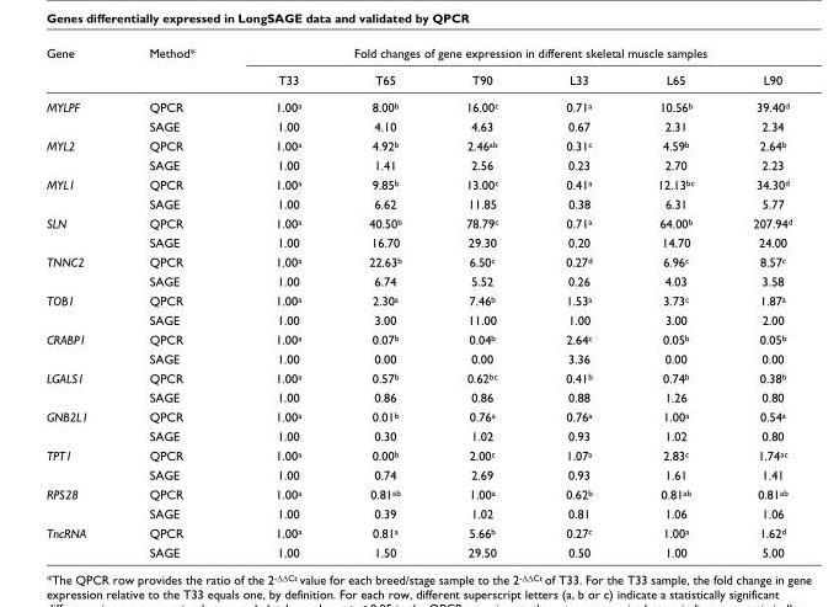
<table><thead><tr><td rowspan="2">Gene</td><td rowspan="2">Method*</td><td colspan="6">Fold changes of gene expression in different skeletal muscle samples</td></tr><tr><td>T33</td><td>T65</td><td>T90</td><td>L33</td><td>L65</td><td>L90</td></tr></thead><tbody><tr><td rowspan="2">MYLPF</td><td>QPCR</td><td>1.00<sup>a</sup></td><td>8.00<sup>b</sup></td><td>16.00<sup>c</sup></td><td>0.71<sup>a</sup></td><td>10.56<sup>b</sup></td><td>39.40<sup>d</sup></td></tr><tr><td>SAGE</td><td>1.00</td><td>4.10</td><td>4.63</td><td>0.67</td><td>2.31</td><td>2.34</td></tr><tr><td rowspan="2">MYL2</td><td>QPCR</td><td>1.00<sup>a</sup></td><td>4.92<sup>b</sup></td><td>2.46<sup>ab</sup></td><td>0.31<sup>c</sup></td><td>4.59<sup>b</sup></td><td>2.64<sup>b</sup></td></tr><tr><td>SAGE</td><td>1.00</td><td>1.41</td><td>2.56</td><td>0.23</td><td>2.70</td><td>2.23</td></tr><tr><td rowspan="2">MYL1</td><td>QPCR</td><td>1.00<sup>a</sup></td><td>9.85<sup>b</sup></td><td>13.00<sup>c</sup></td><td>0.41<sup>a</sup></td><td>12.13<sup>bc</sup></td><td>34.30<sup>d</sup></td></tr><tr><td>SAGE</td><td>1.00</td><td>6.62</td><td>11.85</td><td>0.38</td><td>6.31</td><td>5.77</td></tr><tr><td rowspan="2">SLN</td><td>QPCR</td><td>1.00<sup>a</sup></td><td>40.50<sup>b</sup></td><td>78.79<sup>c</sup></td><td>0.71<sup>a</sup></td><td>64.00<sup>b</sup></td><td>207.94<sup>d</sup></td></tr><tr><td>SAGE</td><td>1.00</td><td>16.70</td><td>29.30</td><td>0.20</td><td>14.70</td><td>24.00</td></tr><tr><td rowspan="2">TNNC2</td><td>QPCR</td><td>1.00<sup>a</sup></td><td>22.63<sup>b</sup></td><td>6.50<sup>c</sup></td><td>0.27<sup>d</sup></td><td>6.96<sup>c</sup></td><td>8.57<sup>c</sup></td></tr><tr><td>SAGE</td><td>1.00</td><td>6.74</td><td>5.52</td><td>0.26</td><td>4.03</td><td>3.58</td></tr><tr><td rowspan="2">TOB1</td><td>QPCR</td><td>1.00<sup>a</sup></td><td>2.30<sup>a</sup></td><td>7.46<sup>b</sup></td><td>1.53<sup>a</sup></td><td>3.73<sup>c</sup></td><td>1.87<sup>a</sup></td></tr><tr><td>SAGE</td><td>1.00</td><td>3.00</td><td>11.00</td><td>1.00</td><td>3.00</td><td>2.00</td></tr><tr><td rowspan="2">CRABP1</td><td>QPCR</td><td>1.00<sup>a</sup></td><td>0.07<sup>b</sup></td><td>0.04<sup>b</sup></td><td>2.64<sup>c</sup></td><td>0.05<sup>b</sup></td><td>0.05<sup>b</sup></td></tr><tr><td>SAGE</td><td>1.00</td><td>0.00</td><td>0.00</td><td>3.36</td><td>0.00</td><td>0.00</td></tr><tr><td rowspan="2">LGALS1</td><td>QPCR</td><td>1.00<sup>a</sup></td><td>0.57<sup>b</sup></td><td>0.62<sup>bc</sup></td><td>0.41<sup>b</sup></td><td>0.74<sup>b</sup></td><td>0.38<sup>b</sup></td></tr><tr><td>SAGE</td><td>1.00</td><td>0.86</td><td>0.86</td><td>0.88</td><td>1.26</td><td>0.80</td></tr><tr><td rowspan="2">GNB2L1</td><td>QPCR</td><td>1.00<sup>a</sup></td><td>0.01<sup>b</sup></td><td>0.76<sup>a</sup></td><td>0.76<sup>a</sup></td><td>1.00<sup>a</sup></td><td>0.54<sup>a</sup></td></tr><tr><td>SAGE</td><td>1.00</td><td>0.30</td><td>1.02</td><td>0.93</td><td>1.02</td><td>0.80</td></tr><tr><td rowspan="2">TPT1</td><td>QPCR</td><td>1.00<sup>a</sup></td><td>0.00<sup>b</sup></td><td>2.00<sup>c</sup></td><td>1.07<sup>a</sup></td><td>2.83<sup>c</sup></td><td>1.74<sup>ac</sup></td></tr><tr><td>SAGE</td><td>1.00</td><td>0.74</td><td>2.69</td><td>0.93</td><td>1.61</td><td>1.41</td></tr><tr><td rowspan="2">RPS28</td><td>QPCR</td><td>1.00<sup>a</sup></td><td>0.81<sup>ab</sup></td><td>1.00<sup>a</sup></td><td>0.62<sup>b</sup></td><td>0.81<sup>ab</sup></td><td>0.81<sup>ab</sup></td></tr><tr><td>SAGE</td><td>1.00</td><td>0.39</td><td>1.02</td><td>0.81</td><td>1.06</td><td>1.06</td></tr><tr><td rowspan="2">TncRNA</td><td>QPCR</td><td>1.00<sup>a</sup></td><td>0.81<sup>a</sup></td><td>5.66<sup>b</sup></td><td>0.27<sup>c</sup></td><td>1.00<sup>a</sup></td><td>1.62<sup>d</sup></td></tr><tr><td>SAGE</td><td>1.00</td><td>1.50</td><td>29.50</td><td>0.50</td><td>1.00</td><td>5.00</td></tr></tbody></table>